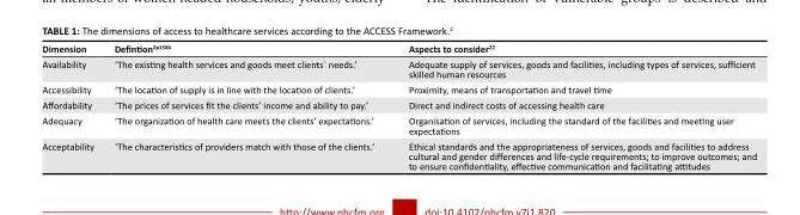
<table><thead><tr><td>Dimension</td><td>Defintion<sup>2p1586</sup></td><td>Aspects to consider<sup>22</sup></td></tr></thead><tbody><tr><td>Availability</td><td>‘The existing health services and goods meet clients` needs.’</td><td>Adequate supply of services, goods and facilities, including types of services, sufficient skilled human resources</td></tr><tr><td>Accessibility</td><td>‘The location of supply is in line with the location of clients.’</td><td>Proximity, means of transportation and travel time</td></tr><tr><td>Affordability</td><td>‘The prices of services fit the clients’ income and ability to pay.’</td><td>Direct and indirect costs of accessing health care</td></tr><tr><td>Adequacy</td><td>‘The organization of health care meets the clients’ expectations.’</td><td>Organisation of services, including the standard of the facilities and meeting user expectations</td></tr><tr><td>Acceptability</td><td>‘The characteristics of providers match with those of the clients.’</td><td>Ethical standards and the appropriateness of services, goods and facilities to address cultural and gender differences and life-cycle requirements; to improve outcomes; and to ensure confidentiality, effective communication and facilitating attitudes</td></tr></tbody></table>